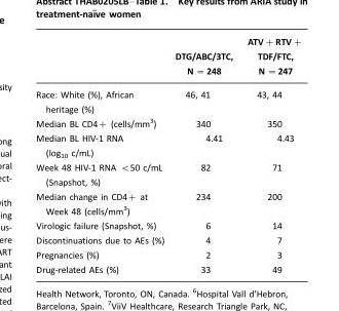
<table><thead><tr><td></td><td>DTG/ABC/3TC, N =248</td><td>ATV+RTV+ TDF/FTC, N =247</td></tr></thead><tbody><tr><td>Race: White (%), African heritage (%)</td><td>46, 41</td><td>43, 44</td></tr><tr><td>Median BL CD4+ (cells/mm3)</td><td>340</td><td>350</td></tr><tr><td>Median BL HIV-1 RNA (log10 c/mL)</td><td>4.41</td><td>4.43</td></tr><tr><td>Week 48 HIV-1 RNA &lt;50 c/mL (Snapshot, %)</td><td>82</td><td>71</td></tr><tr><td>Median change in CD4+ at Week 48 (cells/mm3)</td><td>234</td><td>200</td></tr><tr><td>Virologic failure (Snapshot, %)</td><td>6</td><td>14</td></tr><tr><td>Discontinuations due to AEs (%)</td><td>4</td><td>7</td></tr><tr><td>Pregnancies (%)</td><td>2</td><td>3</td></tr><tr><td>Drug-related AEs (%)</td><td>33</td><td>49</td></tr></tbody></table>